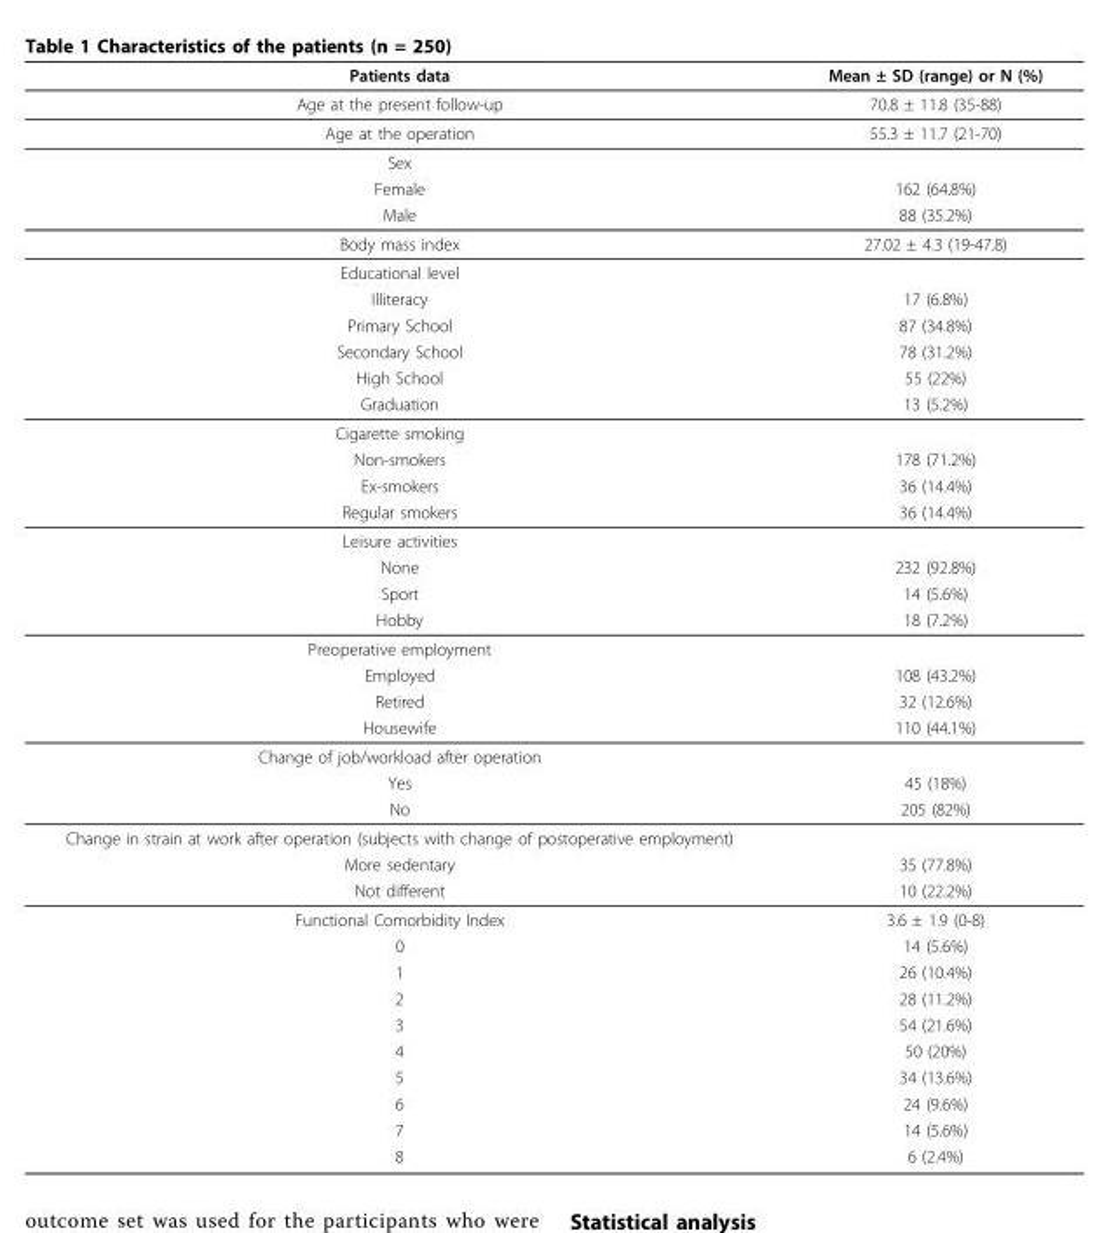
<table><thead><tr><td>Patients data</td><td>Mean ± SD (range) or N (%)</td></tr></thead><tbody><tr><td>Age at the present follow-up</td><td>70.8 ± 11.8 (35-88)</td></tr><tr><td>Age at the operation</td><td>55.3 ± 11.7 (21-70)</td></tr><tr><td colspan="2">Sex</td></tr><tr><td>Female</td><td>162 (64.8%)</td></tr><tr><td>Male</td><td>88 (35.2%)</td></tr><tr><td>Body mass index</td><td>27.02 ± 4.3 (19-47.8)</td></tr><tr><td colspan="2">Educational level</td></tr><tr><td>Illiteracy</td><td>17 (6.8%)</td></tr><tr><td>Primary School</td><td>87 (34.8%)</td></tr><tr><td>Secondary School</td><td>78 (31.2%)</td></tr><tr><td>High School</td><td>55 (22%)</td></tr><tr><td>Graduation</td><td>13 (5.2%)</td></tr><tr><td colspan="2">Cigarette smoking</td></tr><tr><td>Non-smokers</td><td>178 (71.2%)</td></tr><tr><td>Ex-smokers</td><td>36 (14.4%)</td></tr><tr><td>Regular smokers</td><td>36 (14.4%)</td></tr><tr><td colspan="2">Leisure activities</td></tr><tr><td>None</td><td>232 (92.8%)</td></tr><tr><td>Sport</td><td>14 (5.6%)</td></tr><tr><td>Hobby</td><td>18 (7.2%)</td></tr><tr><td colspan="2">Preoperative employment</td></tr><tr><td>Employed</td><td>108 (43.2%)</td></tr><tr><td>Retired</td><td>32 (12.6%)</td></tr><tr><td>Housewife</td><td>110 (44.1%)</td></tr><tr><td colspan="2">Change of job/workload after operation</td></tr><tr><td>Yes</td><td>45 (18%)</td></tr><tr><td>No</td><td>205 (82%)</td></tr><tr><td colspan="2">Change in strain at work after operation (subjects with change of postoperative employment)</td></tr><tr><td>More sedentary</td><td>35 (77.8%)</td></tr><tr><td>Not different</td><td>10 (22.2%)</td></tr><tr><td>Functional Comorbidity Index</td><td>3.6 ± 1.9 (0-8)</td></tr><tr><td>0</td><td>14 (5.6%)</td></tr><tr><td>1</td><td>26 (10.4%)</td></tr><tr><td>2</td><td>28 (11.2%)</td></tr><tr><td>3</td><td>54 (21.6%)</td></tr><tr><td>4</td><td>50 (20%)</td></tr><tr><td>5</td><td>34 (13.6%)</td></tr><tr><td>6</td><td>24 (9.6%)</td></tr><tr><td>7</td><td>14 (5.6%)</td></tr><tr><td>8</td><td>6 (2.4%)</td></tr></tbody></table>